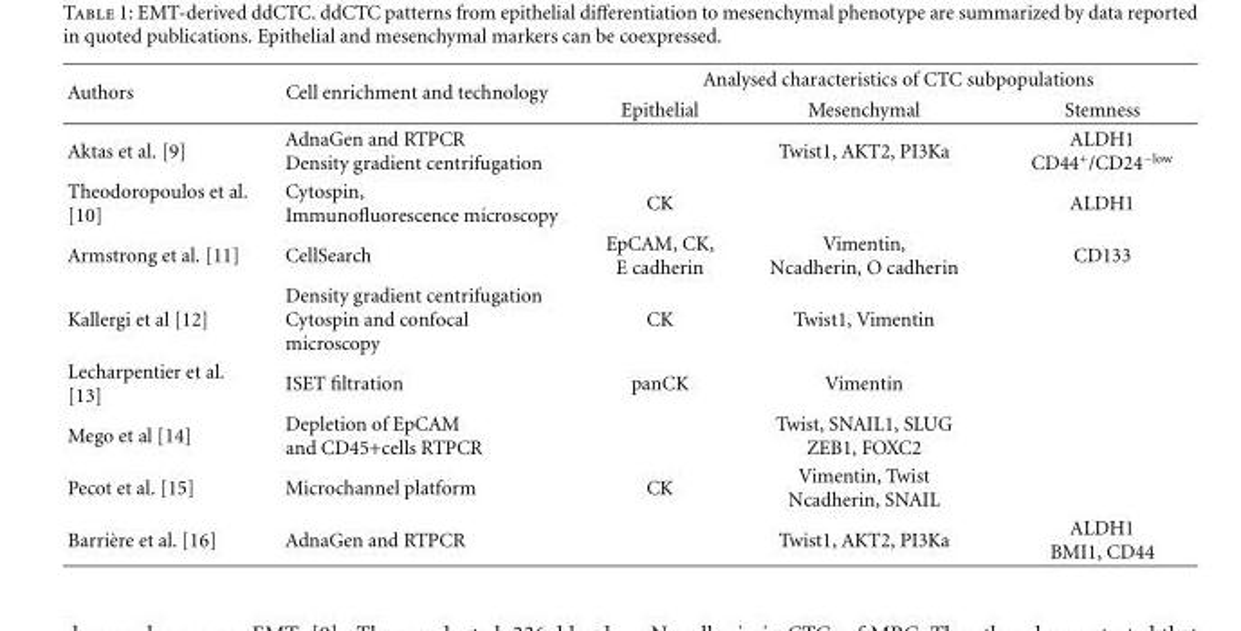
<table><thead><tr><td rowspan="2">Authors</td><td rowspan="2">Cell enrichment and technology</td><td colspan="3">Analysed characteristics of CTC subpopulations</td></tr><tr><td>Epithelial</td><td>Mesenchymal</td><td>Stemness</td></tr></thead><tbody><tr><td>Aktas et al. [9]</td><td>AdnaGen and RTPCR Density gradient centrifugation</td><td></td><td>Twist1, AKT2, PI3Ka</td><td>ALDH1 CD44<sup>+</sup>/CD24<sup>−low</sup></td></tr><tr><td>Theodoropoulos et al. [10]</td><td>Cytospin, Immunofluorescence microscopy</td><td>CK</td><td></td><td>ALDH1</td></tr><tr><td>Armstrong et al. [11]</td><td>CellSearch</td><td>EpCAM, CK, E cadherin</td><td>Vimentin, Ncadherin, O cadherin</td><td>CD133</td></tr><tr><td>Kallergi et al [12]</td><td>Density gradient centrifugation Cytospin and confocal microscopy</td><td>CK</td><td>Twist1, Vimentin</td><td></td></tr><tr><td>Lecharpentier et al. [13]</td><td>ISET filtration</td><td>panCK</td><td>Vimentin</td><td></td></tr><tr><td>Mego et al [14]</td><td>Depletion of EpCAM and CD45+cells RTPCR</td><td></td><td>Twist, SNAIL1, SLUG ZEB1, FOXC2</td><td></td></tr><tr><td>Pecot et al. [15]</td><td>Microchannel platform</td><td>CK</td><td>Vimentin, Twist Ncadherin, SNAIL</td><td></td></tr><tr><td>Barri`ere et al. [16]</td><td>AdnaGen and RTPCR</td><td></td><td>Twist1, AKT2, PI3Ka</td><td>ALDH1 BMI1, CD44</td></tr></tbody></table>